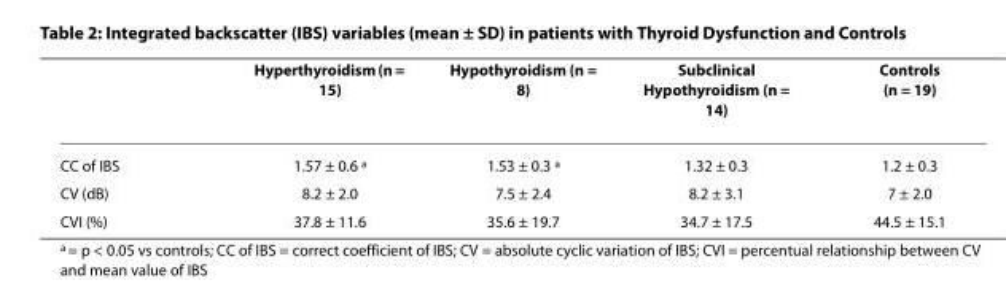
<table><thead><tr><td></td><td>Hyperthyroidism (n = 15)</td><td>Hypothyroidism (n = 8)</td><td>Subclinical Hypothyroidism (n = 14)</td><td>Controls (n = 19)</td></tr></thead><tbody><tr><td>CC of IBS</td><td>1.57 ± 0.6 <sup>a</sup></td><td>1.53 ± 0.3 <sup>a</sup></td><td>1.32 ± 0.3</td><td>1.2 ± 0.3</td></tr><tr><td>CV (dB)</td><td>8.2 ± 2.0</td><td>7.5 ± 2.4</td><td>8.2 ± 3.1</td><td>7 ± 2.0</td></tr><tr><td>CVI (%)</td><td>37.8 ± 11.6</td><td>35.6 ± 19.7</td><td>34.7 ± 17.5</td><td>44.5 ± 15.1</td></tr></tbody></table>